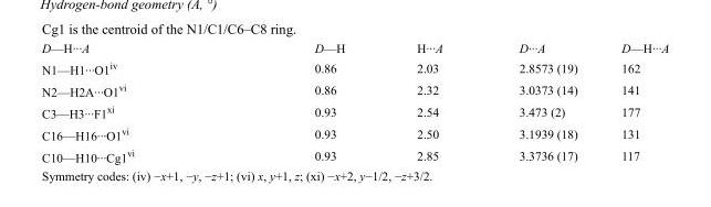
<table><tbody><tr><td>D—H···A</td><td>D—H</td><td>H···A</td><td>D···A</td><td>D—H···A</td></tr><tr><td>N1—H1···O1<sup>iv</sup></td><td>0.86</td><td>2.03</td><td>2.8573 (19)</td><td>162</td></tr><tr><td>N2—H2A···O1<sup>vi</sup></td><td>0.86</td><td>2.32</td><td>3.0373 (14)</td><td>141</td></tr><tr><td>C3—H3···F1<sup>xi</sup></td><td>0.93</td><td>2.54</td><td>3.473 (2)</td><td>177</td></tr><tr><td>C16—H16···O1<sup>vi</sup></td><td>0.93</td><td>2.50</td><td>3.1939 (18)</td><td>131</td></tr><tr><td>C10—H10···Cg1<sup>vi</sup></td><td>0.93</td><td>2.85</td><td>3.3736 (17)</td><td>117</td></tr></tbody></table>